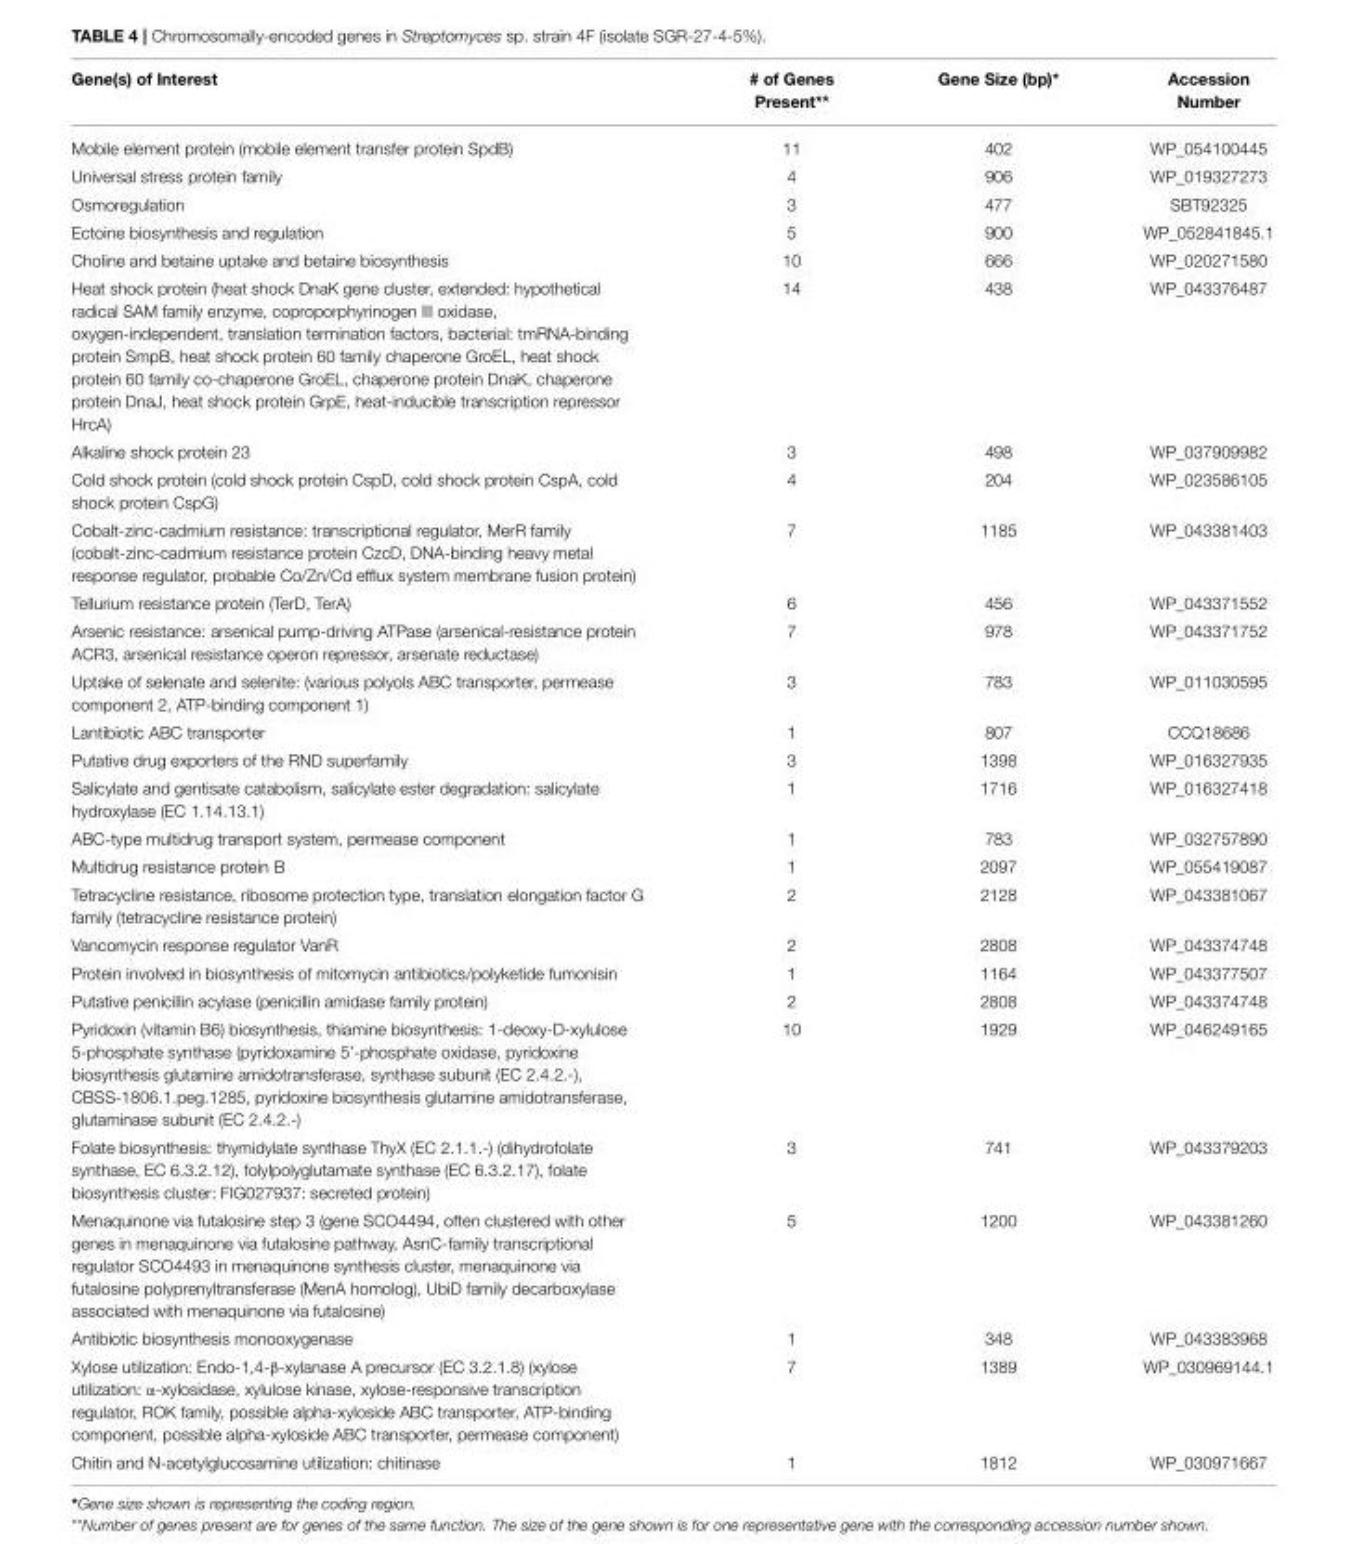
<table><thead><tr><td>Gene(s) of Interest</td><td># of Genes Present**</td><td>Gene Size (bp)*</td><td>Accession Number</td></tr></thead><tbody><tr><td>Mobile element protein (mobile element transfer protein SpdB)</td><td>11</td><td>402</td><td>WP_054100445</td></tr><tr><td>Universal stress protein family</td><td>4</td><td>906</td><td>WP_019327273</td></tr><tr><td>Osmoregulation</td><td>3</td><td>477</td><td>SBT92325</td></tr><tr><td>Ectoine biosynthesis and regulation</td><td>5</td><td>900</td><td>WP_052841845.1</td></tr><tr><td>Choline and betaine uptake and betaine biosynthesis</td><td>10</td><td>666</td><td>WP_020271580</td></tr><tr><td>Heat shock protein (heat shock DnaK gene cluster, extended: hypothetical radical SAM family enzyme, coproporphyrinogen III oxidase, oxygen-independent, translation termination factors, bacterial: tmRNA-binding protein SmpB, heat shock protein 60 family chaperone GroEL, heat shock protein 60 family co-chaperone GroEL, chaperone protein DnaK, chaperone protein DnaJ, heat shock protein GrpE, heat-inducible transcription repressor HrcA)</td><td>14</td><td>438</td><td>WP_043376487</td></tr><tr><td>Alkaline shock protein 23</td><td>3</td><td>498</td><td>WP_037909982</td></tr><tr><td>Cold shock protein (cold shock protein CspD, cold shock protein CspA, cold shock protein CspG)</td><td>4</td><td>204</td><td>WP_023586105</td></tr><tr><td>Cobalt-zinc-cadmium resistance: transcriptional regulator, MerR family (cobalt-zinc-cadmium resistance protein CzcD, DNA-binding heavy metal response regulator, probable Co/Zn/Cd efflux system membrane fusion protein)</td><td>7</td><td>1185</td><td>WP_043381403</td></tr><tr><td>Tellurium resistance protein (TerD, TerA)</td><td>6</td><td>456</td><td>WP_043371552</td></tr><tr><td>Arsenic resistance: arsenical pump-driving ATPase (arsenical-resistance protein ACR3, arsenical resistance operon repressor, arsenate reductase)</td><td>7</td><td>978</td><td>WP_043371752</td></tr><tr><td>Uptake of selenate and selenite: (various polyols ABC transporter, permease component 2, ATP-binding component 1)</td><td>3</td><td>783</td><td>WP_011030595</td></tr><tr><td>Lantibiotic ABC transporter</td><td>1</td><td>807</td><td>CCQ18686</td></tr><tr><td>Putative drug exporters of the RND superfamily</td><td>3</td><td>1398</td><td>WP_016327935</td></tr><tr><td>Salicylate and gentisate catabolism, salicylate ester degradation: salicylate hydroxylase (EC 1.14.13.1)</td><td>1</td><td>1716</td><td>WP_016327418</td></tr><tr><td>ABC-type multidrug transport system, permease component</td><td>1</td><td>783</td><td>WP_032757890</td></tr><tr><td>Multidrug resistance protein B</td><td>1</td><td>2097</td><td>WP_055419087</td></tr><tr><td>Tetracycline resistance, ribosome protection type, translation elongation factor G family (tetracycline resistance protein)</td><td>2</td><td>2128</td><td>WP_043381067</td></tr><tr><td>Vancomycin response regulator VanR</td><td>2</td><td>2808</td><td>WP_043374748</td></tr><tr><td>Protein involved in biosynthesis of mitomycin antibiotics/polyketide fumonisin</td><td>1</td><td>1164</td><td>WP_043377507</td></tr><tr><td>Putative penicillin acylase (penicillin amidase family protein)</td><td>2</td><td>2808</td><td>WP_043374748</td></tr><tr><td>Pyridoxin (vitamin B6) biosynthesis, thiamine biosynthesis: 1-deoxy-D-xylulose 5-phosphate synthase (pyridoxamine 5’-phosphate oxidase, pyridoxine biosynthesis glutamine amidotransferase, synthase subunit (EC 2.4.2.-), CBSS-1806.1.peg.1285, pyridoxine biosynthesis glutamine amidotransferase, glutaminase subunit (EC 2.4.2.-)</td><td>10</td><td>1929</td><td>WP_046249165</td></tr><tr><td>Folate biosynthesis: thymidylate synthase ThyX (EC 2.1.1.-) (dihydrofolate synthase, EC 6.3.2.12), folylpolyglutamate synthase (EC 6.3.2.17), folate biosynthesis cluster: FIG027937: secreted protein)</td><td>3</td><td>741</td><td>WP_043379203</td></tr><tr><td>Menaquinone via futalosine step 3 (gene SCO4494, often clustered with other genes in menaquinone via futalosine pathway, AsnC-family transcriptional regulator SCO4493 in menaquinone synthesis cluster, menaquinone via futalosine polyprenyltransferase (MenA homolog), UbiD family decarboxylase associated with menaquinone via futalosine)</td><td>5</td><td>1200</td><td>WP_043381260</td></tr><tr><td>Antibiotic biosynthesis monooxygenase</td><td>1</td><td>348</td><td>WP_043383968</td></tr><tr><td>Xylose utilization: Endo-1,4-β-xylanase A precursor (EC 3.2.1.8) (xylose utilization: α-xylosidase, xylulose kinase, xylose-responsive transcription regulator, ROK family, possible alpha-xyloside ABC transporter, ATP-binding component, possible alpha-xyloside ABC transporter, permease component)</td><td>7</td><td>1389</td><td>WP_030969144.1</td></tr><tr><td>Chitin and N-acetylglucosamine utilization: chitinase</td><td>1</td><td>1812</td><td>WP_030971667</td></tr></tbody></table>